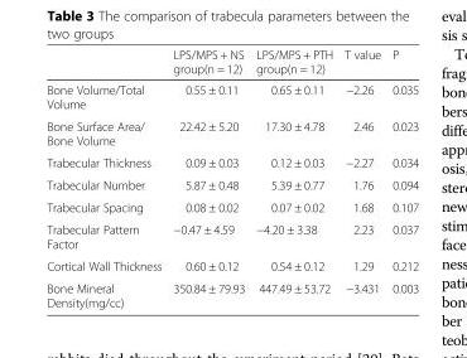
<table><thead><tr><td></td><td>LPS/MPS + NS group(n = 12)</td><td>LPS/MPS + PTH group(n = 12)</td><td>T value</td><td>P</td></tr></thead><tbody><tr><td>Bone Volume/Total Volume</td><td>0.55 ± 0.11</td><td>0.65 ± 0.11</td><td>−2.26</td><td>0.035</td></tr><tr><td>Bone Surface Area/ Bone Volume</td><td>22.42 ± 5.20</td><td>17.30 ± 4.78</td><td>2.46</td><td>0.023</td></tr><tr><td>Trabecular Thickness</td><td>0.09 ± 0.03</td><td>0.12 ± 0.03</td><td>−2.27</td><td>0.034</td></tr><tr><td>Trabecular Number</td><td>5.87 ± 0.48</td><td>5.39 ± 0.77</td><td>1.76</td><td>0.094</td></tr><tr><td>Trabecular Spacing</td><td>0.08 ± 0.02</td><td>0.07 ± 0.02</td><td>1.68</td><td>0.107</td></tr><tr><td>Trabecular Pattern Factor</td><td>−0.47 ± 4.59</td><td>−4.20 ± 3.38</td><td>2.23</td><td>0.037</td></tr><tr><td>Cortical Wall Thickness</td><td>0.60 ± 0.12</td><td>0.54 ± 0.12</td><td>1.29</td><td>0.212</td></tr><tr><td>Bone Mineral Density(mg/cc)</td><td>350.84 ± 79.93</td><td>447.49 ± 53.72</td><td>−3.431</td><td>0.003</td></tr></tbody></table>